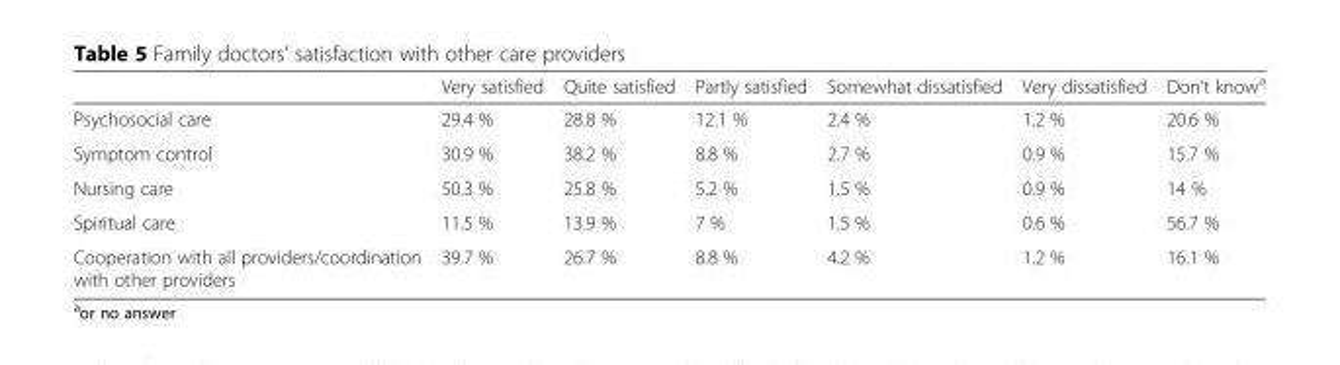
<table><thead><tr><td></td><td>Very satisfied</td><td>Quite satisfied</td><td>Partly satisfied</td><td>Somewhat dissatisfied</td><td>Very dissatisfied</td><td>Don‘t know<sup>a</sup></td></tr></thead><tbody><tr><td>Psychosocial care</td><td>29.4 %</td><td>28.8 %</td><td>12.1 %</td><td>2.4 %</td><td>1.2 %</td><td>20.6 %</td></tr><tr><td>Symptom control</td><td>30.9 %</td><td>38.2 %</td><td>8.8 %</td><td>2.7 %</td><td>0.9 %</td><td>15.7 %</td></tr><tr><td>Nursing care</td><td>50.3 %</td><td>25.8 %</td><td>5.2 %</td><td>1.5 %</td><td>0.9 %</td><td>14 %</td></tr><tr><td>Spiritual care</td><td>11.5 %</td><td>13.9 %</td><td>7 %</td><td>1.5 %</td><td>0.6 %</td><td>56.7 %</td></tr><tr><td>Cooperation with all providers/coordination with other providers</td><td>39.7 %</td><td>26.7 %</td><td>8.8 %</td><td>4.2 %</td><td>1.2 %</td><td>16.1 %</td></tr></tbody></table>